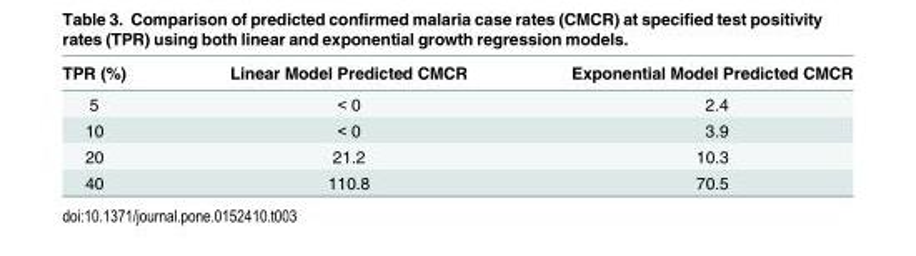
<table><thead><tr><td>TPR (%)</td><td>Linear Model Predicted CMCR</td><td>Exponential Model Predicted CMCR</td></tr></thead><tbody><tr><td>5</td><td>&lt; 0</td><td>2.4</td></tr><tr><td>10</td><td>&lt; 0</td><td>3.9</td></tr><tr><td>20</td><td>21.2</td><td>10.3</td></tr><tr><td>40</td><td>110.8</td><td>70.5</td></tr></tbody></table>